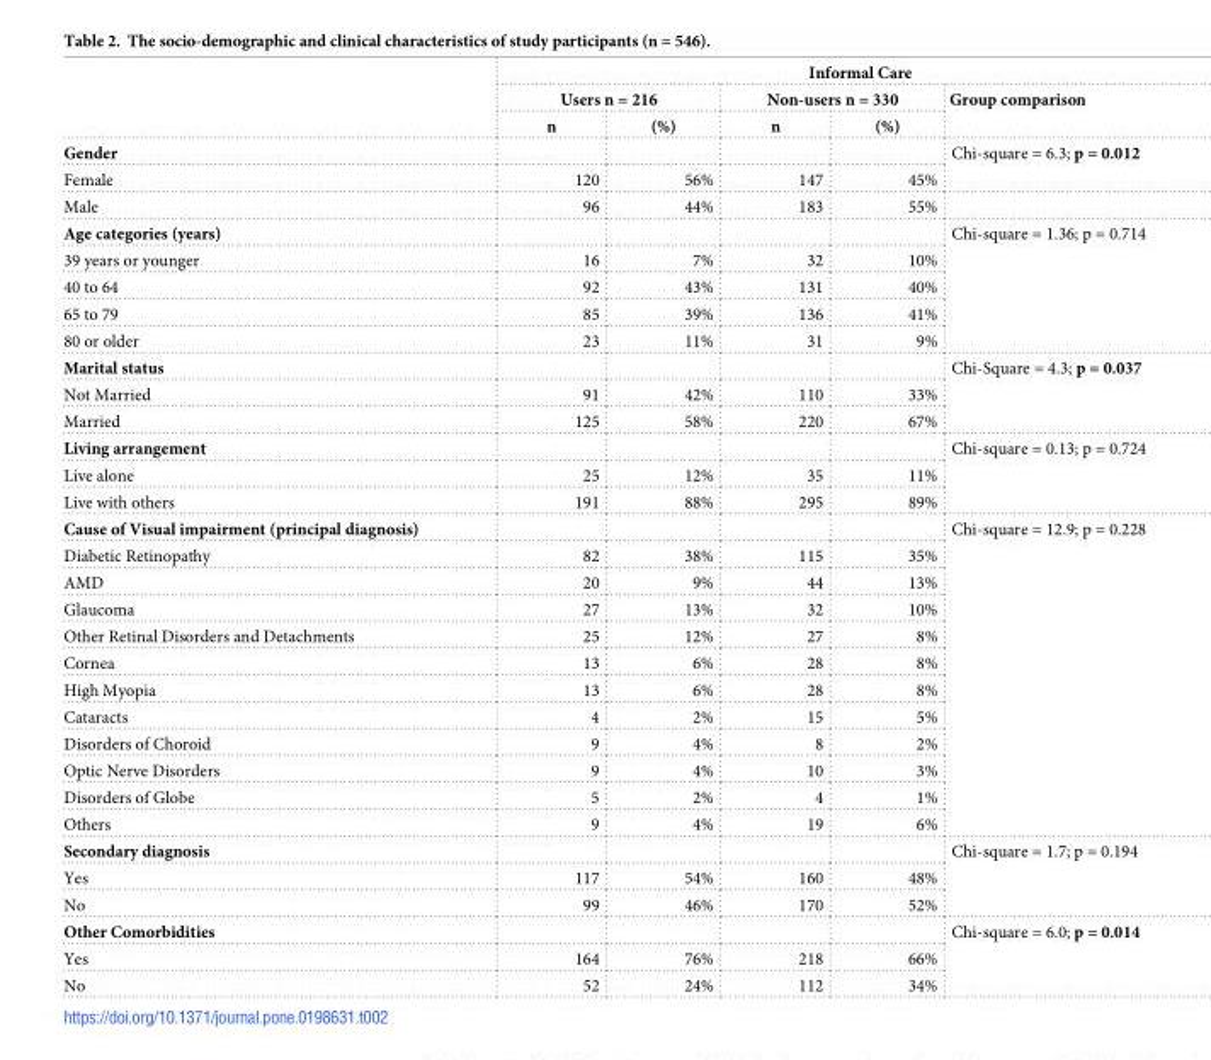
<table><thead><tr><td rowspan="3"></td><td colspan="5">Informal Care</td></tr><tr><td colspan="2">Users n = 216</td><td colspan="2">Non-users n = 330</td><td rowspan="2">Group comparison</td></tr><tr><td>n</td><td>(%)</td><td>n</td><td>(%)</td></tr></thead><tbody><tr><td colspan="5">Gender</td><td rowspan="2">Chi-square = 6.3; p = 0.012</td></tr><tr><td>Female</td><td>120</td><td>56%</td><td>147</td><td>45%</td></tr><tr><td>Male</td><td>96</td><td>44%</td><td>183</td><td>55%</td><td></td></tr><tr><td colspan="5">Age categories (years)</td><td rowspan="5">Chi-square = 1.36; p = 0.714</td></tr><tr><td>39 years or younger</td><td>16</td><td>7%</td><td>32</td><td>10%</td></tr><tr><td>40 to 64</td><td>92</td><td>43%</td><td>131</td><td>40%</td></tr><tr><td>65 to 79</td><td>85</td><td>39%</td><td>136</td><td>41%</td></tr><tr><td>80 or older</td><td>23</td><td>11%</td><td>31</td><td>9%</td></tr><tr><td colspan="5">Marital status</td><td rowspan="3">Chi-Square = 4.3; p = 0.037</td></tr><tr><td>Not Married</td><td>91</td><td>42%</td><td>110</td><td>33%</td></tr><tr><td>Married</td><td>125</td><td>58%</td><td>220</td><td>67%</td></tr><tr><td colspan="5">Living arrangement</td><td rowspan="3">Chi-square = 0.13; p = 0.724</td></tr><tr><td>Live alone</td><td>25</td><td>12%</td><td>35</td><td>11%</td></tr><tr><td>Live with others</td><td>191</td><td>88%</td><td>295</td><td>89%</td></tr><tr><td colspan="5">Cause of Visual impairment (principal diagnosis)</td><td rowspan="12">Chi-square = 12.9; p = 0.228</td></tr><tr><td>Diabetic Retinopathy</td><td>82</td><td>38%</td><td>115</td><td>35%</td></tr><tr><td>AMD</td><td>20</td><td>9%</td><td>44</td><td>13%</td></tr><tr><td>Glaucoma</td><td>27</td><td>13%</td><td>32</td><td>10%</td></tr><tr><td>Other Retinal Disorders and Detachments</td><td>25</td><td>12%</td><td>27</td><td>8%</td></tr><tr><td>Cornea</td><td>13</td><td>6%</td><td>28</td><td>8%</td></tr><tr><td>High Myopia</td><td>13</td><td>6%</td><td>28</td><td>8%</td></tr><tr><td>Cataracts</td><td>4</td><td>2%</td><td>15</td><td>5%</td></tr><tr><td>Disorders of Choroid</td><td>9</td><td>4%</td><td>8</td><td>2%</td></tr><tr><td>Optic Nerve Disorders</td><td>9</td><td>4%</td><td>10</td><td>3%</td></tr><tr><td>Disorders of Globe</td><td>5</td><td>2%</td><td>4</td><td>1%</td></tr><tr><td>Others</td><td>9</td><td>4%</td><td>19</td><td>6%</td></tr><tr><td colspan="5">Secondary diagnosis</td><td rowspan="3">Chi-square = 1.7; p = 0.194</td></tr><tr><td>Yes</td><td>117</td><td>54%</td><td>160</td><td>48%</td></tr><tr><td>No</td><td>99</td><td>46%</td><td>170</td><td>52%</td></tr><tr><td colspan="5">Other Comorbidities</td><td rowspan="3">Chi-square = 6.0; p = 0.014</td></tr><tr><td>Yes</td><td>164</td><td>76%</td><td>218</td><td>66%</td></tr><tr><td>No</td><td>52</td><td>24%</td><td>112</td><td>34%</td></tr></tbody></table>